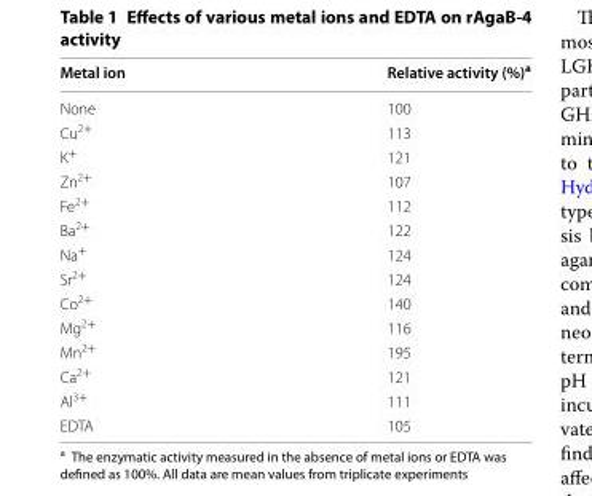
<table><thead><tr><td>Metal ion</td><td>Relative activity (%)<sup>a</sup></td></tr></thead><tbody><tr><td>None</td><td>100</td></tr><tr><td>Cu<sup>2+</sup></td><td>113</td></tr><tr><td>K<sup>+</sup></td><td>121</td></tr><tr><td>Zn<sup>2+</sup></td><td>107</td></tr><tr><td>Fe<sup>2+</sup></td><td>112</td></tr><tr><td>Ba<sup>2+</sup></td><td>122</td></tr><tr><td>Na<sup>+</sup></td><td>124</td></tr><tr><td>Sr<sup>2+</sup></td><td>124</td></tr><tr><td>Co<sup>2+</sup></td><td>140</td></tr><tr><td>Mg<sup>2+</sup></td><td>116</td></tr><tr><td>Mn<sup>2+</sup></td><td>195</td></tr><tr><td>Ca<sup>2+</sup></td><td>121</td></tr><tr><td>Al<sup>3+</sup></td><td>111</td></tr><tr><td>EDTA</td><td>105</td></tr></tbody></table>